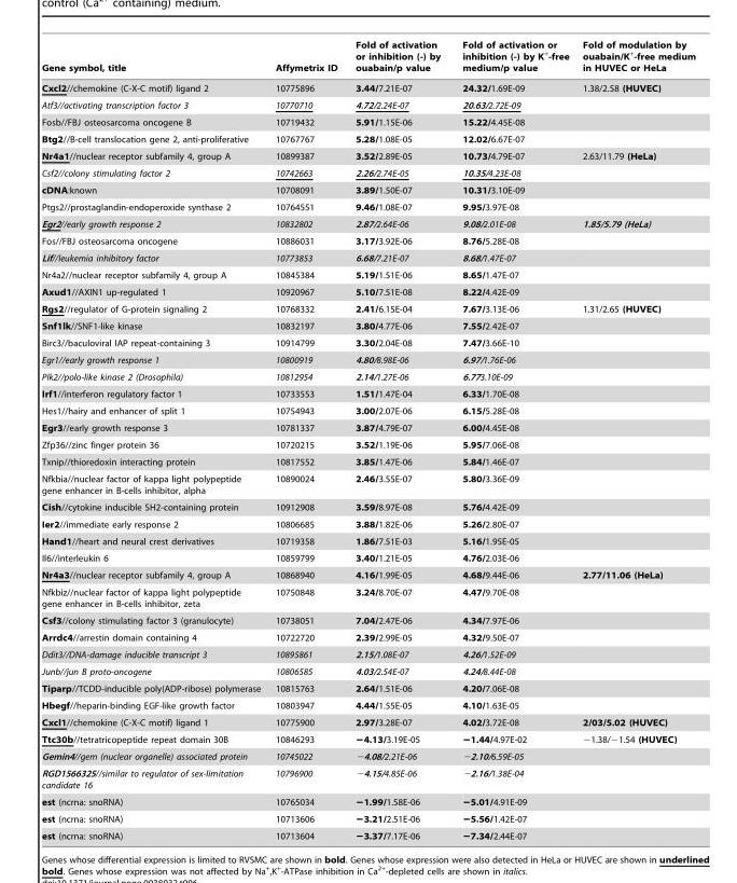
<table><thead><tr><td>Gene symbol, title</td><td>Affymetrix ID</td><td>Fold of activation or inhibition (-) by ouabain/p value</td><td>Fold of activation or inhibition (-) by K<sup>+</sup>-free medium/p value</td><td>Fold of modulation by ouabain/K<sup>+</sup>-free medium in HUVEC or HeLa</td></tr></thead><tbody><tr><td>Cxcl2//chemokine (C-X-C motif) ligand 2</td><td>10775896</td><td>3.44/7.21E-07</td><td>24.32/1.69E-09</td><td>1.38/2.58 (HUVEC)</td></tr><tr><td>Atf3//activating transcription factor 3</td><td>10770710</td><td>4.72/2.24E-07</td><td>20.63/2.72E-09</td><td></td></tr><tr><td>Fosb//FBJ osteosarcoma oncogene B</td><td>10719432</td><td>5.91/1.15E-06</td><td>15.22/4.45E-08</td><td></td></tr><tr><td>Btg2//B-cell translocation gene 2, anti-proliferative</td><td>10767767</td><td>5.28/1.08E-05</td><td>12.02/6.67E-07</td><td></td></tr><tr><td>Nr4a1//nuclear receptor subfamily 4, group A</td><td>10899387</td><td>3.52/2.89E-05</td><td>10.73/4.79E-07</td><td>2.63/11.79 (HeLa)</td></tr><tr><td>Csf2//colony stimulating factor 2</td><td>10742663</td><td>2.26/2.74E-05</td><td>10.35/4.23E-08</td><td></td></tr><tr><td>cDNA:known</td><td>10708091</td><td>3.89/1.50E-07</td><td>10.31/3.10E-09</td><td></td></tr><tr><td>Ptgs2//prostaglandin-endoperoxide synthase 2</td><td>10764551</td><td>9.46/1.08E-07</td><td>9.95/3.97E-08</td><td></td></tr><tr><td>Egr2//early growth response 2</td><td>10832802</td><td>2.87/2.64E-06</td><td>9.08/2.01E-08</td><td>1.85/5.79 (HeLa)</td></tr><tr><td>Fos//FBJ osteosarcoma oncogene</td><td>10886031</td><td>3.17/3.92E-06</td><td>8.76/5.28E-08</td><td></td></tr><tr><td>Lif//leukemia inhibitory factor</td><td>10773853</td><td>6.68/7.21E-07</td><td>8.68/1.47E-07</td><td></td></tr><tr><td>Nr4a2//nuclear receptor subfamily 4, group A</td><td>10845384</td><td>5.19/1.51E-06</td><td>8.65/1.47E-07</td><td></td></tr><tr><td>Axud1//AXIN1 up-regulated 1</td><td>10920967</td><td>5.10/7.51E-08</td><td>8.22/4.42E-09</td><td></td></tr><tr><td>Rgs2//regulator of G-protein signaling 2</td><td>10768332</td><td>2.41/6.15E-04</td><td>7.67/3.13E-06</td><td>1.31/2.65 (HUVEC)</td></tr><tr><td>Snf1lk//SNF1-like kinase</td><td>10832197</td><td>3.80/4.77E-06</td><td>7.55/2.42E-07</td><td></td></tr><tr><td>Birc3//baculoviral IAP repeat-containing 3</td><td>10914799</td><td>3.30/2.04E-08</td><td>7.47/3.66E-10</td><td></td></tr><tr><td>Egr1//early growth response 1</td><td>10800919</td><td>4.80/8.98E-06</td><td>6.97/1.76E-06</td><td></td></tr><tr><td>Plk2//polo-like kinase 2 (Drosophila)</td><td>10812954</td><td>2.14/1.27E-06</td><td>6.773.10E-09</td><td></td></tr><tr><td>Irf1//interferon regulatory factor 1</td><td>10733553</td><td>1.51/1.47E-04</td><td>6.33/1.70E-08</td><td></td></tr><tr><td>Hes1//hairy and enhancer of split 1</td><td>10754943</td><td>3.00/2.07E-06</td><td>6.15/5.28E-08</td><td></td></tr><tr><td>Egr3//early growth response 3</td><td>10781337</td><td>3.87/4.79E-07</td><td>6.00/4.45E-08</td><td></td></tr><tr><td>Zfp36//zinc finger protein 36</td><td>10720215</td><td>3.52/1.19E-06</td><td>5.95/7.06E-08</td><td></td></tr><tr><td>Txnip//thioredoxin interacting protein</td><td>10817552</td><td>3.85/1.47E-06</td><td>5.84/1.46E-07</td><td></td></tr><tr><td>Nfkbia//nuclear factor of kappa light polypeptide gene enhancer in B-cells inhibitor, alpha</td><td>10890024</td><td>2.46/3.55E-07</td><td>5.80/3.36E-09</td><td></td></tr><tr><td>Cish//cytokine inducible SH2-containing protein</td><td>10912908</td><td>3.59/8.97E-08</td><td>5.76/4.42E-09</td><td></td></tr><tr><td>Ier2//immediate early response 2</td><td>10806685</td><td>3.88/1.82E-06</td><td>5.26/2.80E-07</td><td></td></tr><tr><td>Hand1//heart and neural crest derivatives</td><td>10719358</td><td>1.86/7.51E-03</td><td>5.16/1.95E-05</td><td></td></tr><tr><td>Il6//interleukin 6</td><td>10859799</td><td>3.40/1.21E-05</td><td>4.76/2.03E-06</td><td></td></tr><tr><td>Nr4a3//nuclear receptor subfamily 4, group A</td><td>10868940</td><td>4.16/1.99E-05</td><td>4.68/9.44E-06</td><td>2.77/11.06 (HeLa)</td></tr><tr><td>Nfkbiz//nuclear factor of kappa light polypeptide gene enhancer in B-cells inhibitor, zeta</td><td>10750848</td><td>3.24/8.70E-07</td><td>4.47/9.70E-08</td><td></td></tr><tr><td>Csf3//colony stimulating factor 3 (granulocyte)</td><td>10738051</td><td>7.04/2.47E-06</td><td>4.34/7.97E-06</td><td></td></tr><tr><td>Arrdc4//arrestin domain containing 4</td><td>10722720</td><td>2.39/2.99E-05</td><td>4.32/9.50E-07</td><td></td></tr><tr><td>Ddit3//DNA-damage inducible transcript 3</td><td>10895861</td><td>2.15/1.08E-07</td><td>4.26/1.52E-09</td><td></td></tr><tr><td>Junb//jun B proto-oncogene</td><td>10806585</td><td>4.03/2.54E-07</td><td>4.24/8.44E-08</td><td></td></tr><tr><td>Tiparp//TCDD-inducible poly(ADP-ribose) polymerase</td><td>10815763</td><td>2.64/1.51E-06</td><td>4.20/7.06E-08</td><td></td></tr><tr><td>Hbegf//heparin-binding EGF-like growth factor</td><td>10803947</td><td>4.44/1.55E-05</td><td>4.10/1.63E-05</td><td></td></tr><tr><td>Cxcl1//chemokine (C-X-C motif) ligand 1</td><td>10775900</td><td>2.97/3.28E-07</td><td>4.02/3.72E-08</td><td>2/03/5.02 (HUVEC)</td></tr><tr><td>Ttc30b//tetratricopeptide repeat domain 30B</td><td>10846293</td><td>−4.13/3.19E-05</td><td>−1.44/4.97E-02</td><td>−1.38/−1.54 (HUVEC)</td></tr><tr><td>Gemin4//gem (nuclear organelle) associated protein</td><td>10745022</td><td>−4.08/2.21E-06</td><td>−2.10/6.59E-05</td><td></td></tr><tr><td>RGD1566325//similar to regulator of sex-limitation candidate 16</td><td>10796900</td><td>−4.15/4.85E-06</td><td>−2.16/1.38E-04</td><td></td></tr><tr><td>est (ncrna: snoRNA)</td><td>10765034</td><td>−1.99/1.58E-06</td><td>−5.01/4.91E-09</td><td></td></tr><tr><td>est (ncrna: snoRNA)</td><td>10713606</td><td>−3.21/2.51E-06</td><td>−5.56/1.42E-07</td><td></td></tr><tr><td>est (ncrna: snoRNA)</td><td>10713604</td><td>−3.37/7.17E-06</td><td>−7.34/2.44E-07</td><td></td></tr></tbody></table>